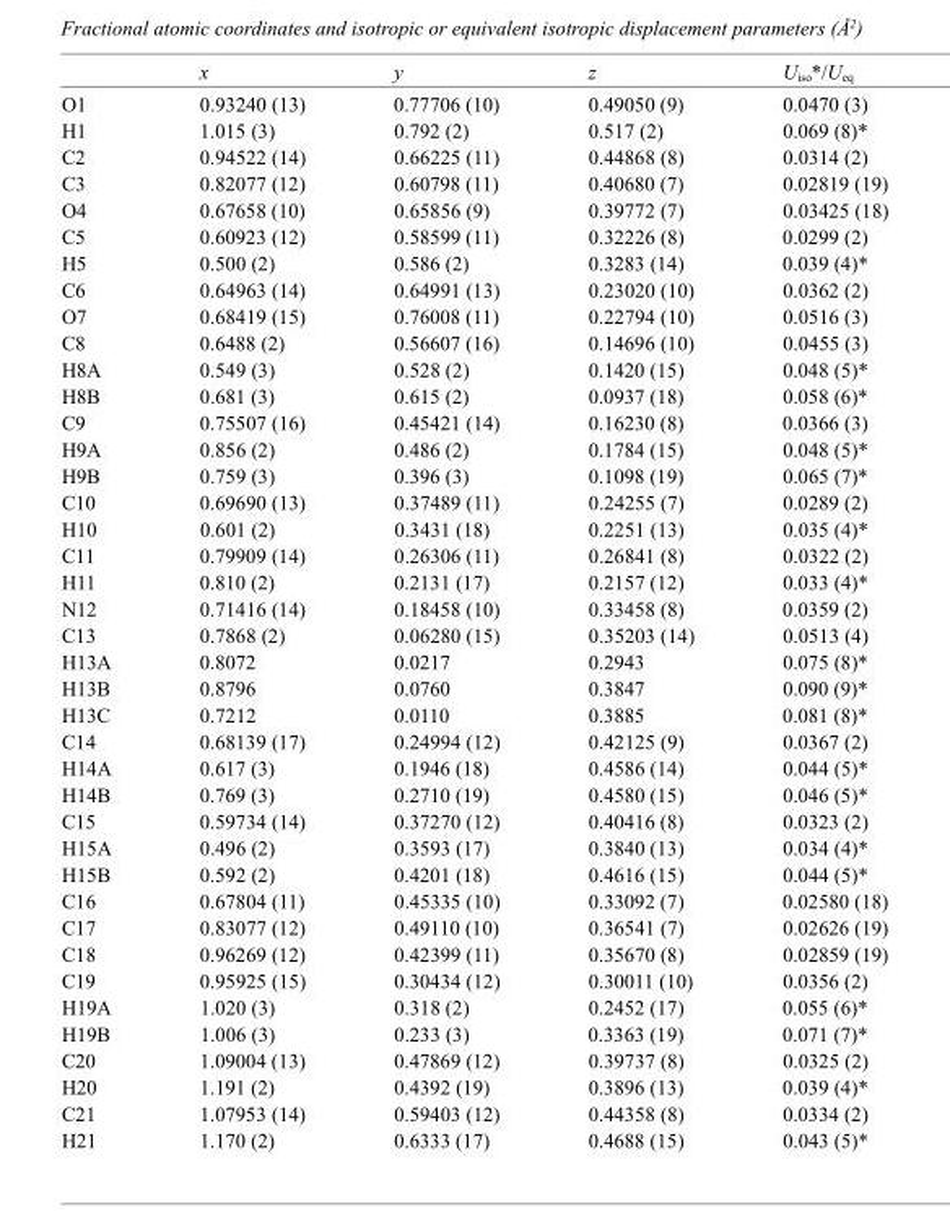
<table><thead><tr><td></td><td>x</td><td>y</td><td>z</td><td>U<sub>iso</sub>*/U<sub>eq</sub></td></tr></thead><tbody><tr><td>O1</td><td>0.93240 (13)</td><td>0.77706 (10)</td><td>0.49050 (9)</td><td>0.0470 (3)</td></tr><tr><td>H1</td><td>1.015 (3)</td><td>0.792 (2)</td><td>0.517 (2)</td><td>0.069 (8)*</td></tr><tr><td>C2</td><td>0.94522 (14)</td><td>0.66225 (11)</td><td>0.44868 (8)</td><td>0.0314 (2)</td></tr><tr><td>C3</td><td>0.82077 (12)</td><td>0.60798 (11)</td><td>0.40680 (7)</td><td>0.02819 (19)</td></tr><tr><td>O4</td><td>0.67658 (10)</td><td>0.65856 (9)</td><td>0.39772 (7)</td><td>0.03425 (18)</td></tr><tr><td>C5</td><td>0.60923 (12)</td><td>0.58599 (11)</td><td>0.32226 (8)</td><td>0.0299 (2)</td></tr><tr><td>H5</td><td>0.500 (2)</td><td>0.586 (2)</td><td>0.3283 (14)</td><td>0.039 (4)*</td></tr><tr><td>C6</td><td>0.64963 (14)</td><td>0.64991 (13)</td><td>0.23020 (10)</td><td>0.0362 (2)</td></tr><tr><td>O7</td><td>0.68419 (15)</td><td>0.76008 (11)</td><td>0.22794 (10)</td><td>0.0516 (3)</td></tr><tr><td>C8</td><td>0.6488 (2)</td><td>0.56607 (16)</td><td>0.14696 (10)</td><td>0.0455 (3)</td></tr><tr><td>H8A</td><td>0.549 (3)</td><td>0.528 (2)</td><td>0.1420 (15)</td><td>0.048 (5)*</td></tr><tr><td>H8B</td><td>0.681 (3)</td><td>0.615 (2)</td><td>0.0937 (18)</td><td>0.058 (6)*</td></tr><tr><td>C9</td><td>0.75507 (16)</td><td>0.45421 (14)</td><td>0.16230 (8)</td><td>0.0366 (3)</td></tr><tr><td>H9A</td><td>0.856 (2)</td><td>0.486 (2)</td><td>0.1784 (15)</td><td>0.048 (5)*</td></tr><tr><td>H9B</td><td>0.759 (3)</td><td>0.396 (3)</td><td>0.1098 (19)</td><td>0.065 (7)*</td></tr><tr><td>C10</td><td>0.69690 (13)</td><td>0.37489 (11)</td><td>0.24255 (7)</td><td>0.0289 (2)</td></tr><tr><td>H10</td><td>0.601 (2)</td><td>0.3431 (18)</td><td>0.2251 (13)</td><td>0.035 (4)*</td></tr><tr><td>C11</td><td>0.79909 (14)</td><td>0.26306 (11)</td><td>0.26841 (8)</td><td>0.0322 (2)</td></tr><tr><td>H11</td><td>0.810 (2)</td><td>0.2131 (17)</td><td>0.2157 (12)</td><td>0.033 (4)*</td></tr><tr><td>N12</td><td>0.71416 (14)</td><td>0.18458 (10)</td><td>0.33458 (8)</td><td>0.0359 (2)</td></tr><tr><td>C13</td><td>0.7868 (2)</td><td>0.06280 (15)</td><td>0.35203 (14)</td><td>0.0513 (4)</td></tr><tr><td>H13A</td><td>0.8072</td><td>0.0217</td><td>0.2943</td><td>0.075 (8)*</td></tr><tr><td>H13B</td><td>0.8796</td><td>0.0760</td><td>0.3847</td><td>0.090 (9)*</td></tr><tr><td>H13C</td><td>0.7212</td><td>0.0110</td><td>0.3885</td><td>0.081 (8)*</td></tr><tr><td>C14</td><td>0.68139 (17)</td><td>0.24994 (12)</td><td>0.42125 (9)</td><td>0.0367 (2)</td></tr><tr><td>H14A</td><td>0.617 (3)</td><td>0.1946 (18)</td><td>0.4586 (14)</td><td>0.044 (5)*</td></tr><tr><td>H14B</td><td>0.769 (3)</td><td>0.2710 (19)</td><td>0.4580 (15)</td><td>0.046 (5)*</td></tr><tr><td>C15</td><td>0.59734 (14)</td><td>0.37270 (12)</td><td>0.40416 (8)</td><td>0.0323 (2)</td></tr><tr><td>H15A</td><td>0.496 (2)</td><td>0.3593 (17)</td><td>0.3840 (13)</td><td>0.034 (4)*</td></tr><tr><td>H15B</td><td>0.592 (2)</td><td>0.4201 (18)</td><td>0.4616 (15)</td><td>0.044 (5)*</td></tr><tr><td>C16</td><td>0.67804 (11)</td><td>0.45335 (10)</td><td>0.33092 (7)</td><td>0.02580 (18)</td></tr><tr><td>C17</td><td>0.83077 (12)</td><td>0.49110 (10)</td><td>0.36541 (7)</td><td>0.02626 (19)</td></tr><tr><td>C18</td><td>0.96269 (12)</td><td>0.42399 (11)</td><td>0.35670 (8)</td><td>0.02859 (19)</td></tr><tr><td>C19</td><td>0.95925 (15)</td><td>0.30434 (12)</td><td>0.30011 (10)</td><td>0.0356 (2)</td></tr><tr><td>H19A</td><td>1.020 (3)</td><td>0.318 (2)</td><td>0.2452 (17)</td><td>0.055 (6)*</td></tr><tr><td>H19B</td><td>1.006 (3)</td><td>0.233 (3)</td><td>0.3363 (19)</td><td>0.071 (7)*</td></tr><tr><td>C20</td><td>1.09004 (13)</td><td>0.47869 (12)</td><td>0.39737 (8)</td><td>0.0325 (2)</td></tr><tr><td>H20</td><td>1.191 (2)</td><td>0.4392 (19)</td><td>0.3896 (13)</td><td>0.039 (4)*</td></tr><tr><td>C21</td><td>1.07953 (14)</td><td>0.59403 (12)</td><td>0.44358 (8)</td><td>0.0334 (2)</td></tr><tr><td>H21</td><td>1.170 (2)</td><td>0.6333 (17)</td><td>0.4688 (15)</td><td>0.043 (5)*</td></tr></tbody></table>